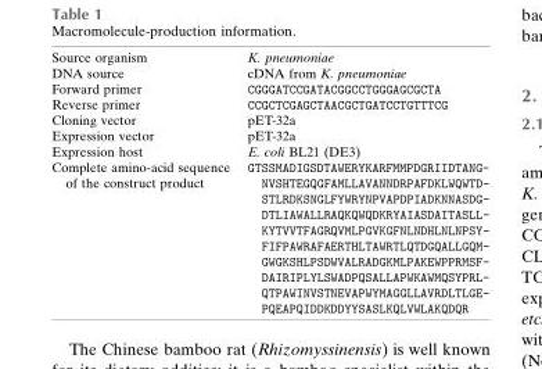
<table><tbody><tr><td>Source organism</td><td>K. pneumoniae</td></tr><tr><td>DNA source</td><td>cDNA from K. pneumoniae</td></tr><tr><td>Forward primer</td><td>CGGGATCCGATACGGCCTGGGAGCGCTA</td></tr><tr><td>Reverse primer</td><td>CCGCTCGAGCTAACGCTGATCCTGTTTCG</td></tr><tr><td>Cloning vector</td><td>pET-32a</td></tr><tr><td>Expression vector</td><td>pET-32a</td></tr><tr><td>Expression host</td><td>E. coli BL21 (DE3)</td></tr><tr><td>Complete amino-acid sequence of the construct product</td><td>GTSSMADIGSDTAWERYKARFMMPDGRIIDTANG- NVSHTEGQGFAMLLAVANNDRPAFDKLWQWTD- STLRDKSNGLFYWRYNPVAPDPIADKNNASDG- DTLIAWALLRAQKQWQDKRYAIASDAITASLL- KYTVVTFAGRQVMLPGVKGFNLNDHLNLNPSY- FIFPAWRAFAERTHLTAWRTLQTDGQALLGQM- GWGKSHLPSDWVALRADGKMLPAKEWPPRMSF- DAIRIPLYLSWADPQSALLAPWKAWMQSYPRL- QTPAWINVSTNEVAPWYMAGGLLAVRDLTLGE- PQEAPQIDDKDDYYSASLKQLVWLAKQDQR</td></tr></tbody></table>